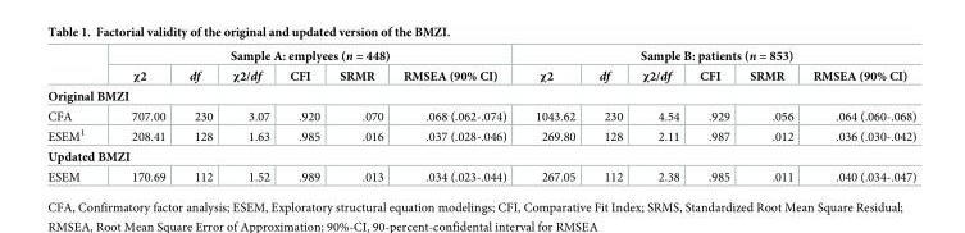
<table><thead><tr><td rowspan="2"></td><td colspan="6">Sample A: emplyees (n = 448)</td><td colspan="6">Sample B: patients (n = 853)</td></tr><tr><td>χ2</td><td>df</td><td>χ2/df</td><td>CFI</td><td>SRMR</td><td>RMSEA (90% CI)</td><td>χ2</td><td>df</td><td>χ2/df</td><td>CFI</td><td>SRMR</td><td>RMSEA (90% CI)</td></tr></thead><tbody><tr><td colspan="13">Original BMZI</td></tr><tr><td>CFA</td><td>707.00</td><td>230</td><td>3.07</td><td>.920</td><td>.070</td><td>.068 (.062-.074)</td><td>1043.62</td><td>230</td><td>4.54</td><td>.929</td><td>.056</td><td>.064 (.060-.068)</td></tr><tr><td>ESEM<sup>1</sup></td><td>208.41</td><td>128</td><td>1.63</td><td>.985</td><td>.016</td><td>.037 (.028-.046)</td><td>269.80</td><td>128</td><td>2.11</td><td>.987</td><td>.012</td><td>.036 (.030-.042)</td></tr><tr><td colspan="13">Updated BMZI</td></tr><tr><td>ESEM</td><td>170.69</td><td>112</td><td>1.52</td><td>.989</td><td>.013</td><td>.034 (.023-.044)</td><td>267.05</td><td>112</td><td>2.38</td><td>.985</td><td>.011</td><td>.040 (.034-.047)</td></tr></tbody></table>